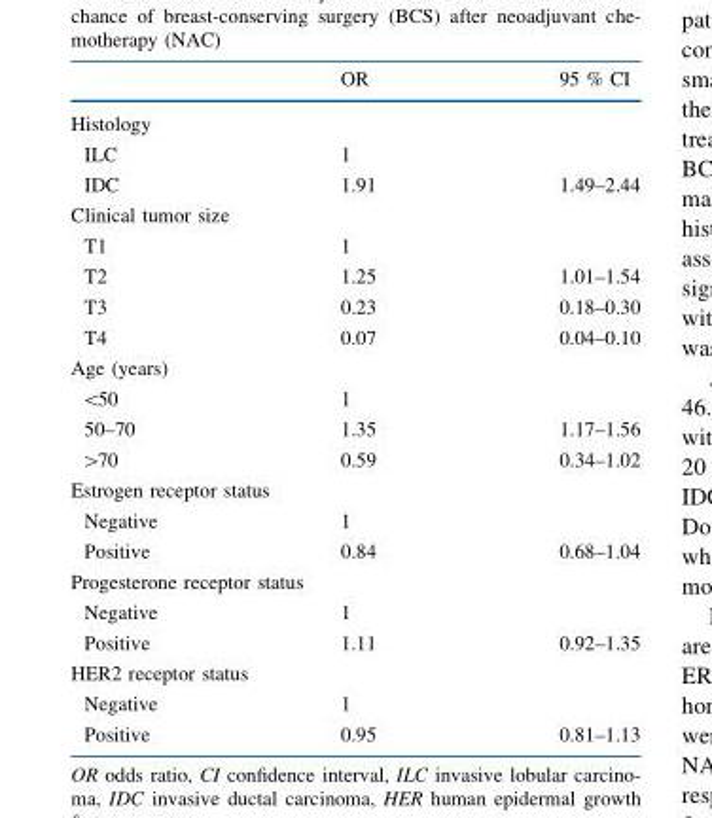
<table><thead><tr><td></td><td>OR</td><td>95 % CI</td></tr></thead><tbody><tr><td colspan="3">Histology</td></tr><tr><td>ILC</td><td>1</td><td></td></tr><tr><td>IDC</td><td>1.91</td><td>1.49–2.44</td></tr><tr><td colspan="3">Clinical tumor size</td></tr><tr><td>T1</td><td>1</td><td></td></tr><tr><td>T2</td><td>1.25</td><td>1.01–1.54</td></tr><tr><td>T3</td><td>0.23</td><td>0.18–0.30</td></tr><tr><td>T4</td><td>0.07</td><td>0.04–0.10</td></tr><tr><td colspan="3">Age (years)</td></tr><tr><td>&lt;50</td><td>1</td><td></td></tr><tr><td>50–70</td><td>1.35</td><td>1.17–1.56</td></tr><tr><td>&gt;70</td><td>0.59</td><td>0.34–1.02</td></tr><tr><td colspan="3">Estrogen receptor status</td></tr><tr><td>Negative</td><td>1</td><td></td></tr><tr><td>Positive</td><td>0.84</td><td>0.68–1.04</td></tr><tr><td colspan="3">Progesterone receptor status</td></tr><tr><td>Negative</td><td>1</td><td></td></tr><tr><td>Positive</td><td>1.11</td><td>0.92–1.35</td></tr><tr><td colspan="3">HER2 receptor status</td></tr><tr><td>Negative</td><td>1</td><td></td></tr><tr><td>Positive</td><td>0.95</td><td>0.81–1.13</td></tr></tbody></table>